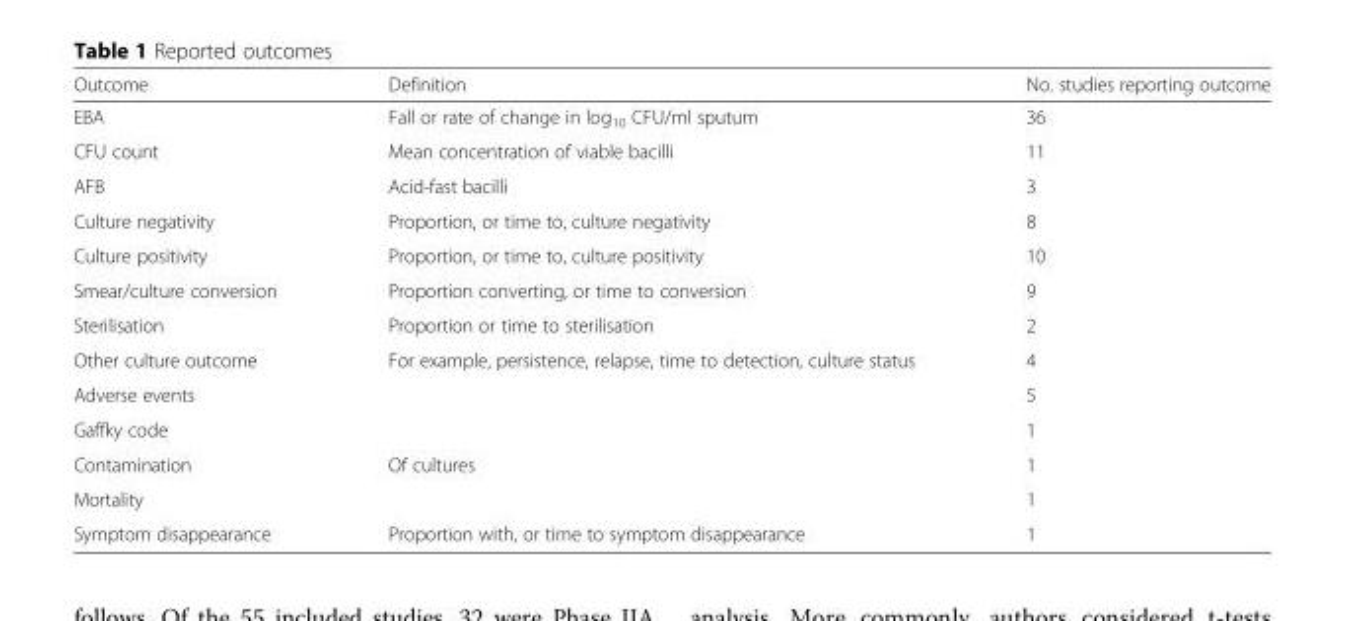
<table><thead><tr><td>Outcome</td><td>Definition</td><td>No. studies reporting outcome</td></tr></thead><tbody><tr><td>EBA</td><td>Fall or rate of change in log<sub>10</sub> CFU/ml sputum</td><td>36</td></tr><tr><td>CFU count</td><td>Mean concentration of viable bacilli</td><td>11</td></tr><tr><td>AFB</td><td>Acid-fast bacilli</td><td>3</td></tr><tr><td>Culture negativity</td><td>Proportion, or time to, culture negativity</td><td>8</td></tr><tr><td>Culture positivity</td><td>Proportion, or time to, culture positivity</td><td>10</td></tr><tr><td>Smear/culture conversion</td><td>Proportion converting, or time to conversion</td><td>9</td></tr><tr><td>Sterilisation</td><td>Proportion or time to sterilisation</td><td>2</td></tr><tr><td>Other culture outcome</td><td>For example, persistence, relapse, time to detection, culture status</td><td>4</td></tr><tr><td>Adverse events</td><td></td><td>5</td></tr><tr><td>Gaffky code</td><td></td><td>1</td></tr><tr><td>Contamination</td><td>Of cultures</td><td>1</td></tr><tr><td>Mortality</td><td></td><td>1</td></tr><tr><td>Symptom disappearance</td><td>Proportion with, or time to symptom disappearance</td><td>1</td></tr></tbody></table>